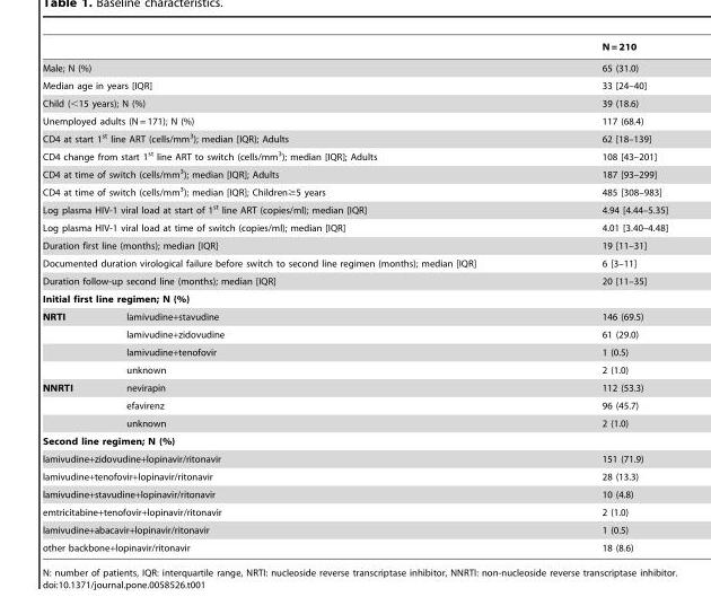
<table><thead><tr><td></td><td></td><td>N = 210</td></tr></thead><tbody><tr><td colspan="2">Male; N (%)</td><td>65 (31.0)</td></tr><tr><td colspan="2">Median age in years [IQR]</td><td>33 [24–40]</td></tr><tr><td colspan="2">Child (&lt;15 years); N (%)</td><td>39 (18.6)</td></tr><tr><td colspan="2">Unemployed adults (N = 171); N (%)</td><td>117 (68.4)</td></tr><tr><td colspan="2">CD4 at start 1<sup>st</sup> line ART (cells/mm<sup>3</sup>); median [IQR}; Adults</td><td>62 [18–139]</td></tr><tr><td colspan="2">CD4 change from start 1<sup>st</sup> line ART to switch (cells/mm<sup>3</sup>); median [IQR]; Adults</td><td>108 [43–201]</td></tr><tr><td colspan="2">CD4 at time of switch (cells/mm<sup>3</sup>); median [IQR]; Adults</td><td>187 [93–299]</td></tr><tr><td colspan="2">CD4 at time of switch (cells/mm<sup>3</sup>); median [IQR]; Children≥5 years</td><td>485 [308–983]</td></tr><tr><td colspan="2">Log plasma HIV-1 viral load at start of 1<sup>st</sup> line ART (copies/ml); median [IQR]</td><td>4.94 [4.44–5.35]</td></tr><tr><td colspan="2">Log plasma HIV-1 viral load at time of switch (copies/ml); median [IQR]</td><td>4.01 [3.40–4.48]</td></tr><tr><td colspan="2">Duration first line (months); median [IQR]</td><td>19 [11–31]</td></tr><tr><td colspan="2">Documented duration virological failure before switch to second line regimen (months); median [IQR]</td><td>6 [3–11]</td></tr><tr><td colspan="2">Duration follow-up second line (months); median [IQR]</td><td>20 [11–35]</td></tr><tr><td colspan="3">Initial first line regimen; N (%)</td></tr><tr><td rowspan="4">NRTI</td><td>lamivudine+stavudine</td><td>146 (69.5)</td></tr><tr><td>lamivudine+zidovudine</td><td>61 (29.0)</td></tr><tr><td>lamivudine+tenofovir</td><td>1 (0.5)</td></tr><tr><td>unknown</td><td>2 (1.0)</td></tr><tr><td rowspan="3">NNRTI</td><td>nevirapin</td><td>112 (53.3)</td></tr><tr><td>efavirenz</td><td>96 (45.7)</td></tr><tr><td>unknown</td><td>2 (1.0)</td></tr><tr><td colspan="3">Second line regimen; N (%)</td></tr><tr><td colspan="2">lamivudine+zidovudine+lopinavir/ritonavir</td><td>151 (71.9)</td></tr><tr><td colspan="2">lamivudine+tenofovir+lopinavir/ritonavir</td><td>28 (13.3)</td></tr><tr><td colspan="2">lamivudine+stavudine+lopinavir/ritonavir</td><td>10 (4.8)</td></tr><tr><td colspan="2">emtricitabine+tenofovir+lopinavir/ritonavir</td><td>2 (1.0)</td></tr><tr><td colspan="2">lamivudine+abacavir+lopinavir/ritonavir</td><td>1 (0.5)</td></tr><tr><td colspan="2">other backbone+lopinavir/ritonavir</td><td>18 (8.6)</td></tr></tbody></table>